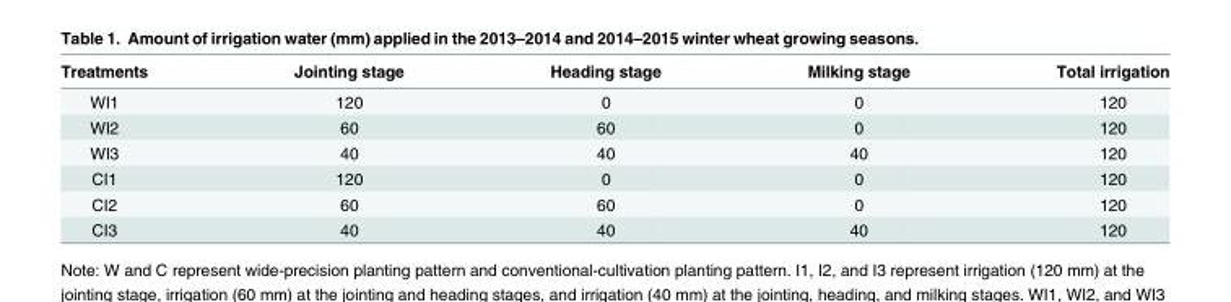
<table><thead><tr><td>Treatments</td><td>Jointing stage</td><td>Heading stage</td><td>Milking stage</td><td>Total irrigation</td></tr></thead><tbody><tr><td>WI1</td><td>120</td><td>0</td><td>0</td><td>120</td></tr><tr><td>WI2</td><td>60</td><td>60</td><td>0</td><td>120</td></tr><tr><td>WI3</td><td>40</td><td>40</td><td>40</td><td>120</td></tr><tr><td>CI1</td><td>120</td><td>0</td><td>0</td><td>120</td></tr><tr><td>CI2</td><td>60</td><td>60</td><td>0</td><td>120</td></tr><tr><td>CI3</td><td>40</td><td>40</td><td>40</td><td>120</td></tr></tbody></table>